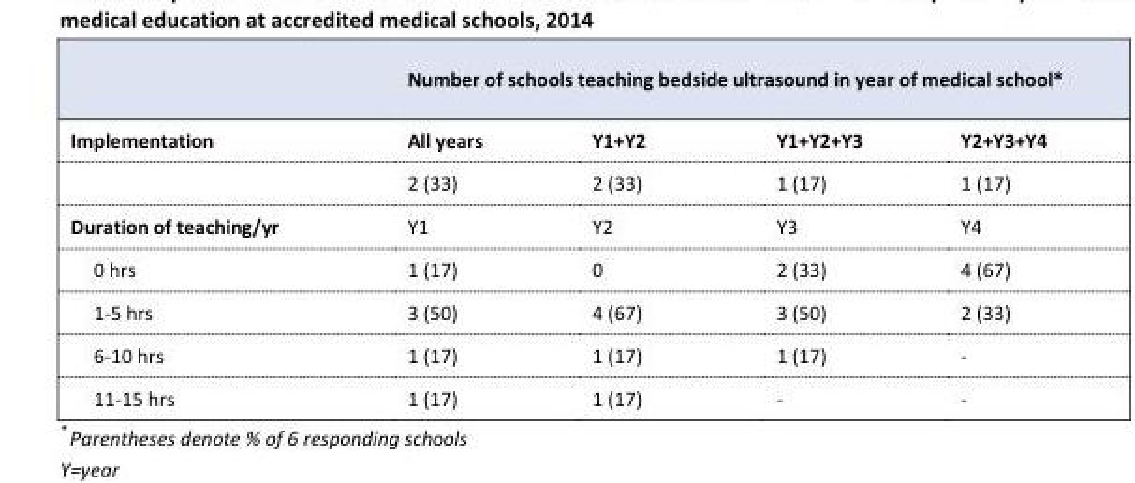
<table><thead><tr><td rowspan="2">Implementation</td><td colspan="4">Number of schools teaching bedside ultrasound in year of medical school*</td></tr><tr><td>All years</td><td>Y1+Y2</td><td>Y1+Y2+Y3</td><td>Y2+Y3+Y4</td></tr></thead><tbody><tr><td></td><td>2 (33)</td><td>2 (33)</td><td>1 (17)</td><td>1 (17)</td></tr><tr><td>Duration of teaching/yr</td><td>Y1</td><td>Y2</td><td>Y3</td><td>Y4</td></tr><tr><td>0 hrs</td><td>1 (17)</td><td>0</td><td>2 (33)</td><td>4 (67)</td></tr><tr><td>1-5 hrs</td><td>3 (50)</td><td>4 (67)</td><td>3 (50)</td><td>2 (33)</td></tr><tr><td>6-10 hrs</td><td>1 (17)</td><td>1 (17)</td><td>1 (17)</td><td>-</td></tr><tr><td>11-15 hrs</td><td>1 (17)</td><td>1 (17)</td><td>-</td><td>-</td></tr></tbody></table>